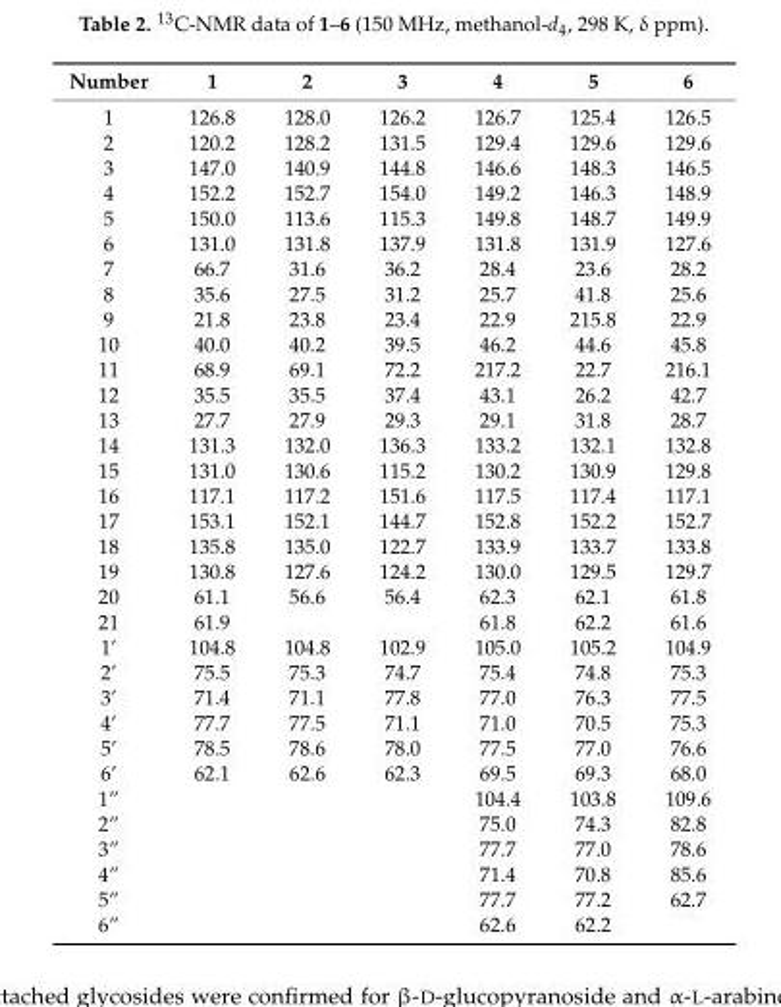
<table><thead><tr><td>Number</td><td>1</td><td>2</td><td>3</td><td>4</td><td>5</td><td>6</td></tr></thead><tbody><tr><td>1</td><td>126.8</td><td>128.0</td><td>126.2</td><td>126.7</td><td>125.4</td><td>126.5</td></tr><tr><td>2</td><td>120.2</td><td>128.2</td><td>131.5</td><td>129.4</td><td>129.6</td><td>129.6</td></tr><tr><td>3</td><td>147.0</td><td>140.9</td><td>144.8</td><td>146.6</td><td>148.3</td><td>146.5</td></tr><tr><td>4</td><td>152.2</td><td>152.7</td><td>154.0</td><td>149.2</td><td>146.3</td><td>148.9</td></tr><tr><td>5</td><td>150.0</td><td>113.6</td><td>115.3</td><td>149.8</td><td>148.7</td><td>149.9</td></tr><tr><td>6</td><td>131.0</td><td>131.8</td><td>137.9</td><td>131.8</td><td>131.9</td><td>127.6</td></tr><tr><td>7</td><td>66.7</td><td>31.6</td><td>36.2</td><td>28.4</td><td>23.6</td><td>28.2</td></tr><tr><td>8</td><td>35.6</td><td>27.5</td><td>31.2</td><td>25.7</td><td>41.8</td><td>25.6</td></tr><tr><td>9</td><td>21.8</td><td>23.8</td><td>23.4</td><td>22.9</td><td>215.8</td><td>22.9</td></tr><tr><td>10</td><td>40.0</td><td>40.2</td><td>39.5</td><td>46.2</td><td>44.6</td><td>45.8</td></tr><tr><td>11</td><td>68.9</td><td>69.1</td><td>72.2</td><td>217.2</td><td>22.7</td><td>216.1</td></tr><tr><td>12</td><td>35.5</td><td>35.5</td><td>37.4</td><td>43.1</td><td>26.2</td><td>42.7</td></tr><tr><td>13</td><td>27.7</td><td>27.9</td><td>29.3</td><td>29.1</td><td>31.8</td><td>28.7</td></tr><tr><td>14</td><td>131.3</td><td>132.0</td><td>136.3</td><td>133.2</td><td>132.1</td><td>132.8</td></tr><tr><td>15</td><td>131.0</td><td>130.6</td><td>115.2</td><td>130.2</td><td>130.9</td><td>129.8</td></tr><tr><td>16</td><td>117.1</td><td>117.2</td><td>151.6</td><td>117.5</td><td>117.4</td><td>117.1</td></tr><tr><td>17</td><td>153.1</td><td>152.1</td><td>144.7</td><td>152.8</td><td>152.2</td><td>152.7</td></tr><tr><td>18</td><td>135.8</td><td>135.0</td><td>122.7</td><td>133.9</td><td>133.7</td><td>133.8</td></tr><tr><td>19</td><td>130.8</td><td>127.6</td><td>124.2</td><td>130.0</td><td>129.5</td><td>129.7</td></tr><tr><td>20</td><td>61.1</td><td>56.6</td><td>56.4</td><td>62.3</td><td>62.1</td><td>61.8</td></tr><tr><td>21</td><td>61.9</td><td></td><td></td><td>61.8</td><td>62.2</td><td>61.6</td></tr><tr><td>1’</td><td>104.8</td><td>104.8</td><td>102.9</td><td>105.0</td><td>105.2</td><td>104.9</td></tr><tr><td>2’</td><td>75.5</td><td>75.3</td><td>74.7</td><td>75.4</td><td>74.8</td><td>75.3</td></tr><tr><td>3’</td><td>71.4</td><td>71.1</td><td>77.8</td><td>77.0</td><td>76.3</td><td>77.5</td></tr><tr><td>4’</td><td>77.7</td><td>77.5</td><td>71.1</td><td>71.0</td><td>70.5</td><td>75.3</td></tr><tr><td>5’</td><td>78.5</td><td>78.6</td><td>78.0</td><td>77.5</td><td>77.0</td><td>76.6</td></tr><tr><td>6’</td><td>62.1</td><td>62.6</td><td>62.3</td><td>69.5</td><td>69.3</td><td>68.0</td></tr><tr><td>1”</td><td></td><td></td><td></td><td>104.4</td><td>103.8</td><td>109.6</td></tr><tr><td>2”</td><td></td><td></td><td></td><td>75.0</td><td>74.3</td><td>82.8</td></tr><tr><td>3”</td><td></td><td></td><td></td><td>77.7</td><td>77.0</td><td>78.6</td></tr><tr><td>4”</td><td></td><td></td><td></td><td>71.4</td><td>70.8</td><td>85.6</td></tr><tr><td>5”</td><td></td><td></td><td></td><td>77.7</td><td>77.2</td><td>62.7</td></tr><tr><td>6”</td><td></td><td></td><td></td><td>62.6</td><td>62.2</td><td></td></tr></tbody></table>